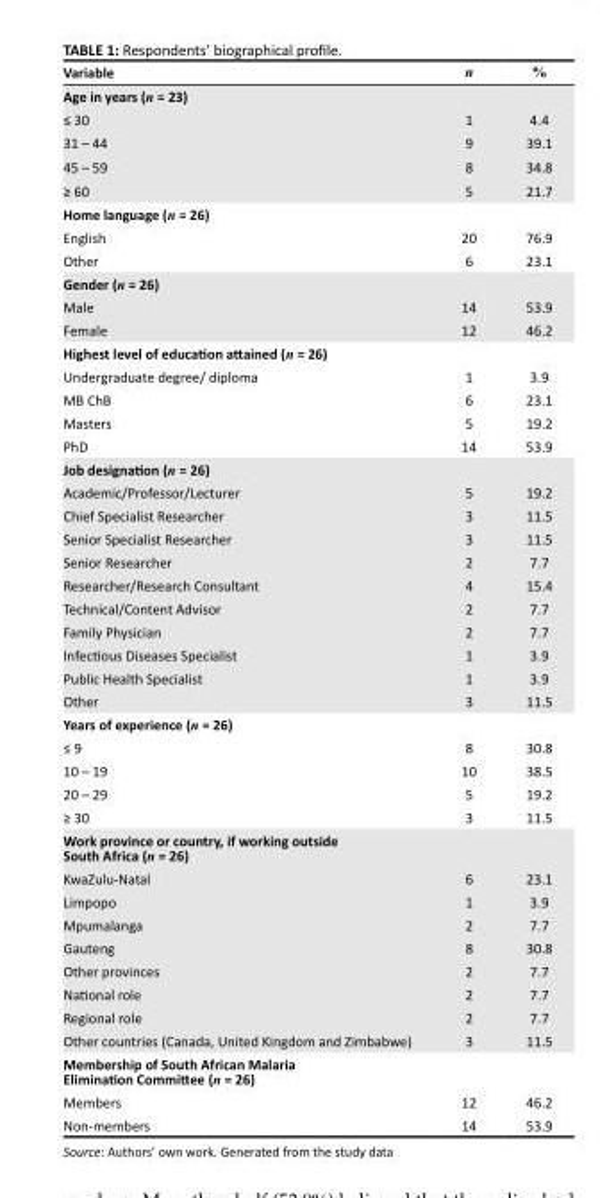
<table><thead><tr><td>Variable</td><td>n</td><td>%</td></tr></thead><tbody><tr><td colspan="3">Age in years (n = 23)</td></tr><tr><td>≤ 30</td><td>1</td><td>4.4</td></tr><tr><td>31 – 44</td><td>9</td><td>39.1</td></tr><tr><td>45 – 59</td><td>8</td><td>34.8</td></tr><tr><td>≥ 60</td><td>5</td><td>21.7</td></tr><tr><td colspan="3">Home language (n = 26)</td></tr><tr><td>English</td><td>20</td><td>76.9</td></tr><tr><td>Other</td><td>6</td><td>23.1</td></tr><tr><td colspan="3">Gender (n = 26)</td></tr><tr><td>Male</td><td>14</td><td>53.9</td></tr><tr><td>Female</td><td>12</td><td>46.2</td></tr><tr><td colspan="3">Highest level of education attained (n = 26)</td></tr><tr><td>Undergraduate degree/ diploma</td><td>1</td><td>3.9</td></tr><tr><td>MB ChB</td><td>6</td><td>23.1</td></tr><tr><td>Masters</td><td>5</td><td>19.2</td></tr><tr><td>PhD</td><td>14</td><td>53.9</td></tr><tr><td colspan="3">Job designation (n = 26)</td></tr><tr><td>Academic/Professor/Lecturer</td><td>5</td><td>19.2</td></tr><tr><td>Chief Specialist Researcher</td><td>3</td><td>11.5</td></tr><tr><td>Senior Specialist Researcher</td><td>3</td><td>11.5</td></tr><tr><td>Senior Researcher</td><td>2</td><td>7.7</td></tr><tr><td>Researcher/Research Consultant</td><td>4</td><td>15.4</td></tr><tr><td>Technical/Content Advisor</td><td>2</td><td>7.7</td></tr><tr><td>Family Physician</td><td>2</td><td>7.7</td></tr><tr><td>Infectious Diseases Specialist</td><td>1</td><td>3.9</td></tr><tr><td>Public Health Specialist</td><td>1</td><td>3.9</td></tr><tr><td>Other</td><td>3</td><td>11.5</td></tr><tr><td colspan="3">Years of experience (n = 26)</td></tr><tr><td>≤ 9</td><td>8</td><td>30.8</td></tr><tr><td>10 – 19</td><td>10</td><td>38.5</td></tr><tr><td>20 – 29</td><td>5</td><td>19.2</td></tr><tr><td>≥ 30</td><td>3</td><td>11.5</td></tr><tr><td colspan="3">Work province or country, if working outside South Africa (n = 26)</td></tr><tr><td>KwaZulu-Natal</td><td>6</td><td>23.1</td></tr><tr><td>Limpopo</td><td>1</td><td>3.9</td></tr><tr><td>Mpumalanga</td><td>2</td><td>7.7</td></tr><tr><td>Gauteng</td><td>8</td><td>30.8</td></tr><tr><td>Other provinces</td><td>2</td><td>7.7</td></tr><tr><td>National role</td><td>2</td><td>7.7</td></tr><tr><td>Regional role</td><td>2</td><td>7.7</td></tr><tr><td>Other countries (Canada, United Kingdom and Zimbabwe)</td><td>3</td><td>11.5</td></tr><tr><td colspan="3">Membership of South African Malaria Elimination Committee (n = 26)</td></tr><tr><td>Members</td><td>12</td><td>46.2</td></tr><tr><td>Non-members</td><td>14</td><td>53.9</td></tr></tbody></table>